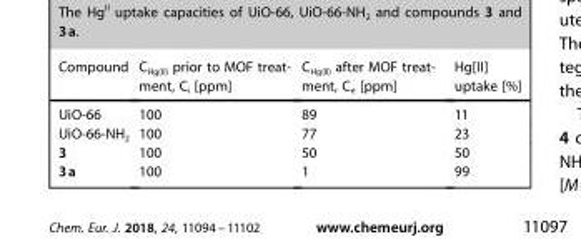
<table><thead><tr><td>Compound</td><td>CHg(II) prior to MOF treat- ment, Ci [ppm]</td><td>CHg(II) after MOF treat- ment, Ce [ppm]</td><td>Hg[II] uptake [%]</td></tr></thead><tbody><tr><td>UiO-66</td><td>100</td><td>89</td><td>11</td></tr><tr><td>UiO-66-NH<sub>2</sub></td><td>100</td><td>77</td><td>23</td></tr><tr><td>3</td><td>100</td><td>50</td><td>50</td></tr><tr><td>3a</td><td>100</td><td>1</td><td>99</td></tr></tbody></table>